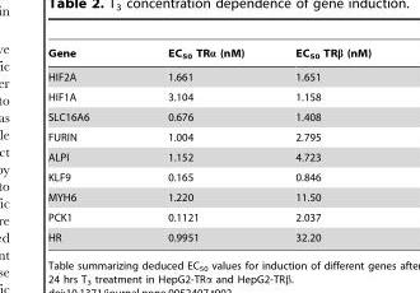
<table><thead><tr><td>Gene</td><td>EC<sub>50</sub> TRα (nM)</td><td>EC<sub>50</sub> TRβ (nM)</td></tr></thead><tbody><tr><td>HIF2A</td><td>1.661</td><td>1.651</td></tr><tr><td>HIF1A</td><td>3.104</td><td>1.158</td></tr><tr><td>SLC16A6</td><td>0.676</td><td>1.408</td></tr><tr><td>FURIN</td><td>1.004</td><td>2.795</td></tr><tr><td>ALPI</td><td>1.152</td><td>4.723</td></tr><tr><td>KLF9</td><td>0.165</td><td>0.846</td></tr><tr><td>MYH6</td><td>1.220</td><td>11.50</td></tr><tr><td>PCK1</td><td>0.1121</td><td>2.037</td></tr><tr><td>HR</td><td>0.9951</td><td>32.20</td></tr></tbody></table>